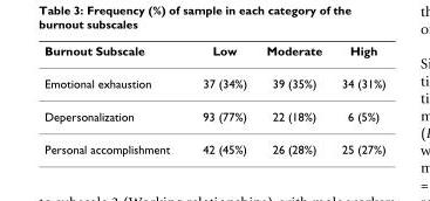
<table><thead><tr><td>Burnout Subscale</td><td>Low</td><td>Moderate</td><td>High</td></tr></thead><tbody><tr><td>Emotional exhaustion</td><td>37 (34%)</td><td>39 (35%)</td><td>34 (31%)</td></tr><tr><td>Depersonalization</td><td>93 (77%)</td><td>22 (18%)</td><td>6 (5%)</td></tr><tr><td>Personal accomplishment</td><td>42 (45%)</td><td>26 (28%)</td><td>25 (27%)</td></tr></tbody></table>